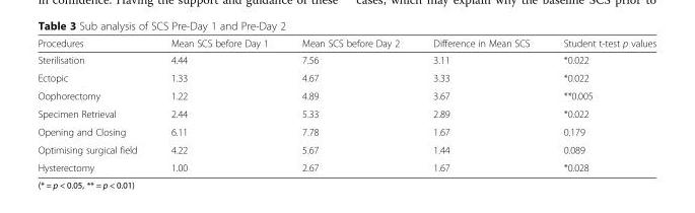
<table><thead><tr><td>Procedures</td><td>Mean SCS before Day 1</td><td>Mean SCS before Day 2</td><td>Difference in Mean SCS</td><td>Student t-test p values</td></tr></thead><tbody><tr><td>Sterilisation</td><td>4.44</td><td>7.56</td><td>3.11</td><td>*0.022</td></tr><tr><td>Ectopic</td><td>1.33</td><td>4.67</td><td>3.33</td><td>*0.022</td></tr><tr><td>Oophorectomy</td><td>1.22</td><td>4.89</td><td>3.67</td><td>**0.005</td></tr><tr><td>Specimen Retrieval</td><td>2.44</td><td>5.33</td><td>2.89</td><td>*0.022</td></tr><tr><td>Opening and Closing</td><td>6.11</td><td>7.78</td><td>1.67</td><td>0.179</td></tr><tr><td>Optimising surgical field</td><td>4.22</td><td>5.67</td><td>1.44</td><td>0.089</td></tr><tr><td>Hysterectomy</td><td>1.00</td><td>2.67</td><td>1.67</td><td>*0.028</td></tr></tbody></table>